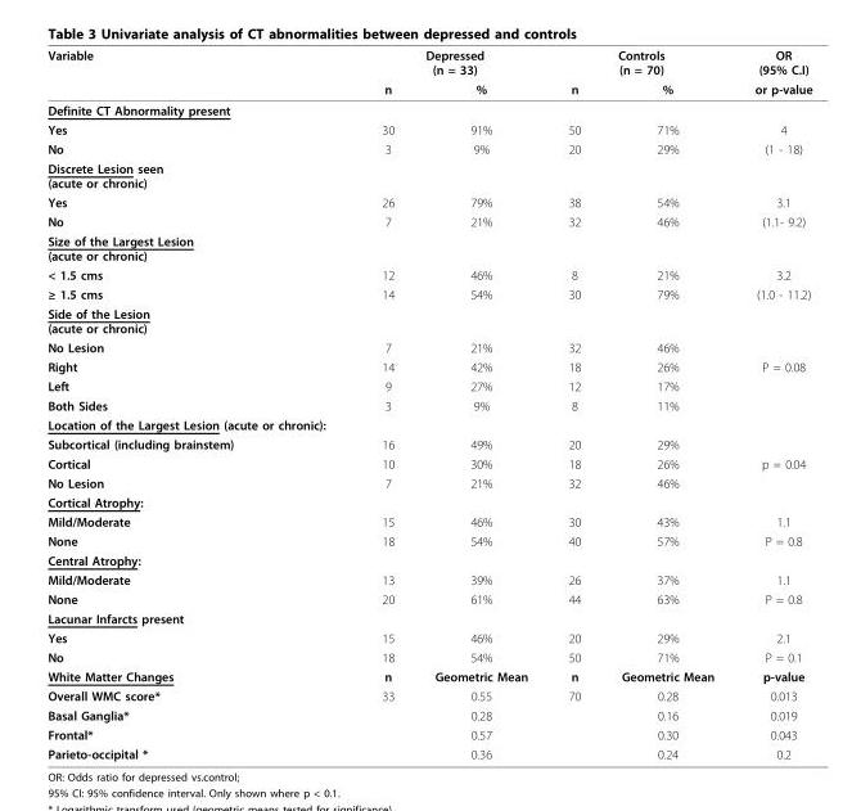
<table><thead><tr><td rowspan="2">Variable</td><td colspan="2">Depressed (n = 33)</td><td colspan="2">Controls (n = 70)</td><td rowspan="2">OR (95% C.I) or p-value</td></tr><tr><td>n</td><td>%</td><td>n</td><td>%</td></tr></thead><tbody><tr><td colspan="6">Definite CT Abnormality present</td></tr><tr><td>Yes</td><td>30</td><td>91%</td><td>50</td><td>71%</td><td>4</td></tr><tr><td>No</td><td>3</td><td>9%</td><td>20</td><td>29%</td><td>(1 - 18)</td></tr><tr><td colspan="6">Discrete Lesion seen (acute or chronic)</td></tr><tr><td>Yes</td><td>26</td><td>79%</td><td>38</td><td>54%</td><td>3.1</td></tr><tr><td>No</td><td>7</td><td>21%</td><td>32</td><td>46%</td><td>(1.1- 9.2)</td></tr><tr><td colspan="6">Size of the Largest Lesion (acute or chronic)</td></tr><tr><td>&lt; 1.5 cms</td><td>12</td><td>46%</td><td>8</td><td>21%</td><td>3.2</td></tr><tr><td>≥ 1.5 cms</td><td>14</td><td>54%</td><td>30</td><td>79%</td><td>(1.0 - 11.2)</td></tr><tr><td colspan="6">Side of the Lesion (acute or chronic)</td></tr><tr><td>No Lesion</td><td>7</td><td>21%</td><td>32</td><td>46%</td><td></td></tr><tr><td>Right</td><td>14</td><td>42%</td><td>18</td><td>26%</td><td>P = 0.08</td></tr><tr><td>Left</td><td>9</td><td>27%</td><td>12</td><td>17%</td><td></td></tr><tr><td>Both Sides</td><td>3</td><td>9%</td><td>8</td><td>11%</td><td></td></tr><tr><td colspan="6">Location of the Largest Lesion (acute or chronic):</td></tr><tr><td>Subcortical (including brainstem)</td><td>16</td><td>49%</td><td>20</td><td>29%</td><td></td></tr><tr><td>Cortical</td><td>10</td><td>30%</td><td>18</td><td>26%</td><td>p = 0.04</td></tr><tr><td>No Lesion</td><td>7</td><td>21%</td><td>32</td><td>46%</td><td></td></tr><tr><td colspan="6">Cortical Atrophy:</td></tr><tr><td>Mild/Moderate</td><td>15</td><td>46%</td><td>30</td><td>43%</td><td>1.1</td></tr><tr><td>None</td><td>18</td><td>54%</td><td>40</td><td>57%</td><td>P = 0.8</td></tr><tr><td colspan="6">Central Atrophy:</td></tr><tr><td>Mild/Moderate</td><td>13</td><td>39%</td><td>26</td><td>37%</td><td>1.1</td></tr><tr><td>None</td><td>20</td><td>61%</td><td>44</td><td>63%</td><td>P = 0.8</td></tr><tr><td colspan="6">Lacunar Infarcts present</td></tr><tr><td>Yes</td><td>15</td><td>46%</td><td>20</td><td>29%</td><td>2.1</td></tr><tr><td>No</td><td>18</td><td>54%</td><td>50</td><td>71%</td><td>P = 0.1</td></tr><tr><td>White Matter Changes</td><td>n</td><td>Geometric Mean</td><td>n</td><td>Geometric Mean</td><td>p-value</td></tr><tr><td>Overall WMC score*</td><td>33</td><td>0.55</td><td>70</td><td>0.28</td><td>0.013</td></tr><tr><td>Basal Ganglia*</td><td></td><td>0.28</td><td></td><td>0.16</td><td>0.019</td></tr><tr><td>Frontal*</td><td></td><td>0.57</td><td></td><td>0.30</td><td>0.043</td></tr><tr><td>Parieto-occipital *</td><td></td><td>0.36</td><td></td><td>0.24</td><td>0.2</td></tr></tbody></table>